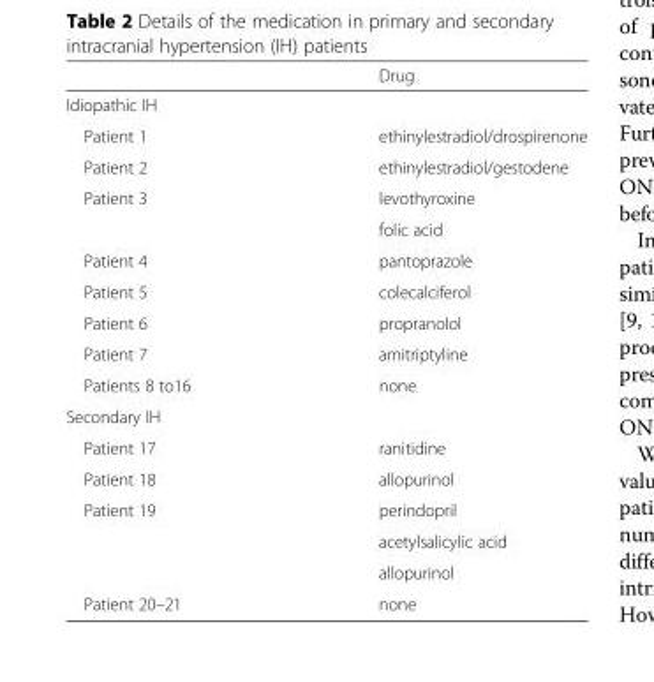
<table><thead><tr><td></td><td>Drug</td></tr></thead><tbody><tr><td colspan="2">Idiopathic IH</td></tr><tr><td>Patient 1</td><td>ethinylestradiol/drospirenone</td></tr><tr><td>Patient 2</td><td>ethinylestradiol/gestodene</td></tr><tr><td rowspan="2">Patient 3</td><td>levothyroxine</td></tr><tr><td>folic acid</td></tr><tr><td>Patient 4</td><td>pantoprazole</td></tr><tr><td>Patient 5</td><td>colecalciferol</td></tr><tr><td>Patient 6</td><td>propranolol</td></tr><tr><td>Patient 7</td><td>amitriptyline</td></tr><tr><td>Patients 8 to16</td><td>none</td></tr><tr><td colspan="2">Secondary IH</td></tr><tr><td>Patient 17</td><td>ranitidine</td></tr><tr><td>Patient 18</td><td>allopurinol</td></tr><tr><td rowspan="3">Patient 19</td><td>perindopril</td></tr><tr><td>acetylsalicylic acid</td></tr><tr><td>allopurinol</td></tr><tr><td>Patient 20–21</td><td>none</td></tr></tbody></table>